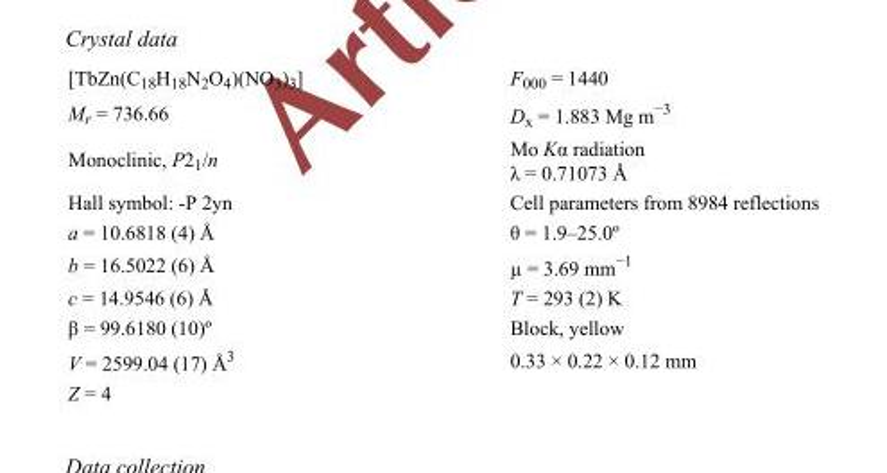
<table><tbody><tr><td>[TbZn(C18H18N2O4)(NO3)3]</td><td>F000 = 1440</td></tr><tr><td>Mr = 736.66</td><td>Dx = 1.883 Mg m−3</td></tr><tr><td>Monoclinic, P21/n</td><td>Mo Kα radiation λ = 0.71073 Å</td></tr><tr><td>Hall symbol: -P 2yn</td><td>Cell parameters from 8984 reflections</td></tr><tr><td>a = 10.6818 (4) Å</td><td>θ = 1.9–25.0º</td></tr><tr><td>b = 16.5022 (6) Å</td><td>µ = 3.69 mm−1</td></tr><tr><td>c = 14.9546 (6) Å</td><td>T = 293 (2) K</td></tr><tr><td>β = 99.6180 (10)º</td><td>Block, yellow</td></tr><tr><td>V = 2599.04 (17) Å3</td><td>0.33 × 0.22 × 0.12 mm</td></tr><tr><td>Z = 4</td><td></td></tr></tbody></table>